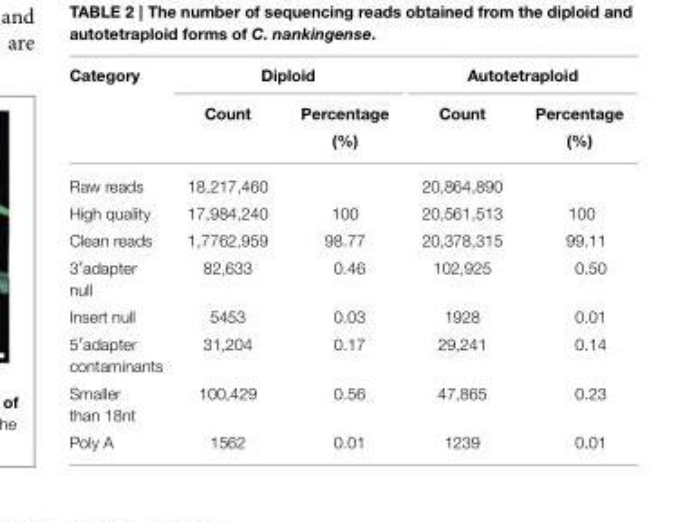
<table><thead><tr><td rowspan="2">Category</td><td colspan="2">Diploid</td><td colspan="2">Autotetraploid</td></tr><tr><td>Count</td><td>Percentage (%)</td><td>Count</td><td>Percentage (%)</td></tr></thead><tbody><tr><td>Raw reads</td><td>18,217,460</td><td></td><td>20,864,890</td><td></td></tr><tr><td>High quality</td><td>17,984,240</td><td>100</td><td>20,561,513</td><td>100</td></tr><tr><td>Clean reads</td><td>1,7762,959</td><td>98.77</td><td>20,378,315</td><td>99.11</td></tr><tr><td>3′adapter null</td><td>82,633</td><td>0.46</td><td>102,925</td><td>0.50</td></tr><tr><td>Insert null</td><td>5453</td><td>0.03</td><td>1928</td><td>0.01</td></tr><tr><td>5′adapter contaminants</td><td>31,204</td><td>0.17</td><td>29,241</td><td>0.14</td></tr><tr><td>Smaller than 18nt</td><td>100,429</td><td>0.56</td><td>47,865</td><td>0.23</td></tr><tr><td>Poly A</td><td>1562</td><td>0.01</td><td>1239</td><td>0.01</td></tr></tbody></table>